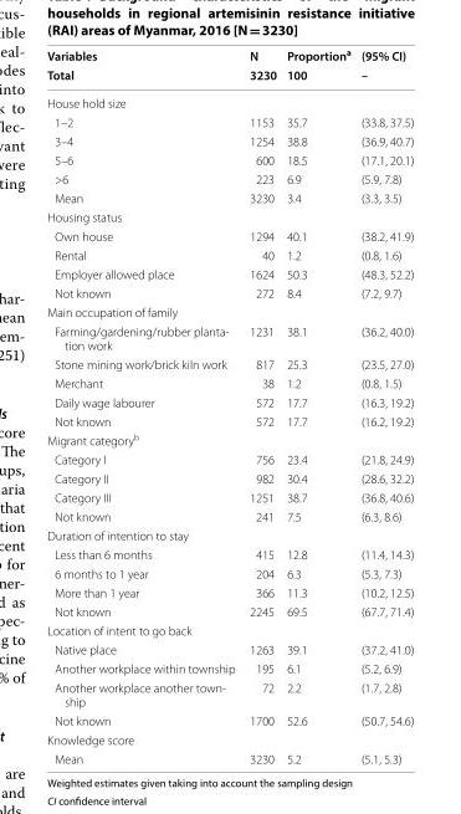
<table><thead><tr><td rowspan="2">Variables Total</td><td rowspan="2">N 3230</td><td rowspan="2">Proportion<sup>a</sup> 100</td><td rowspan="2">(95% CI) –</td></tr><tr></tr></thead><tbody><tr><td colspan="4">House hold size</td></tr><tr><td>1–2</td><td>1153</td><td>35.7</td><td>(33.8, 37.5)</td></tr><tr><td>3–4</td><td>1254</td><td>38.8</td><td>(36.9, 40.7)</td></tr><tr><td>5–6</td><td>600</td><td>18.5</td><td>(17.1, 20.1)</td></tr><tr><td>&gt;6</td><td>223</td><td>6.9</td><td>(5.9, 7.8)</td></tr><tr><td>Mean</td><td>3230</td><td>3.4</td><td>(3.3, 3.5)</td></tr><tr><td colspan="4">Housing status</td></tr><tr><td>Own house</td><td>1294</td><td>40.1</td><td>(38.2, 41.9)</td></tr><tr><td>Rental</td><td>40</td><td>1.2</td><td>(0.8, 1.6)</td></tr><tr><td>Employer allowed place</td><td>1624</td><td>50.3</td><td>(48.3, 52.2)</td></tr><tr><td>Not known</td><td>272</td><td>8.4</td><td>(7.2, 9.7)</td></tr><tr><td colspan="4">Main occupation of family</td></tr><tr><td>Farming/gardening/rubber planta- tion work</td><td>1231</td><td>38.1</td><td>(36.2, 40.0)</td></tr><tr><td>Stone mining work/brick kiln work</td><td>817</td><td>25.3</td><td>(23.5, 27.0)</td></tr><tr><td>Merchant</td><td>38</td><td>1.2</td><td>(0.8, 1.5)</td></tr><tr><td>Daily wage labourer</td><td>572</td><td>17.7</td><td>(16.3, 19.2)</td></tr><tr><td>Not known</td><td>572</td><td>17.7</td><td>(16.2, 19.2)</td></tr><tr><td colspan="4">Migrant category<sup>b</sup></td></tr><tr><td>Category I</td><td>756</td><td>23.4</td><td>(21.8, 24.9)</td></tr><tr><td>Category II</td><td>982</td><td>30.4</td><td>(28.6, 32.2)</td></tr><tr><td>Category III</td><td>1251</td><td>38.7</td><td>(36.8, 40.6)</td></tr><tr><td>Not known</td><td>241</td><td>7.5</td><td>(6.3, 8.6)</td></tr><tr><td colspan="4">Duration of intention to stay</td></tr><tr><td>Less than 6 months</td><td>415</td><td>12.8</td><td>(11.4, 14.3)</td></tr><tr><td>6 months to 1 year</td><td>204</td><td>6.3</td><td>(5.3, 7.3)</td></tr><tr><td>More than 1 year</td><td>366</td><td>11.3</td><td>(10.2, 12.5)</td></tr><tr><td>Not known</td><td>2245</td><td>69.5</td><td>(67.7, 71.4)</td></tr><tr><td colspan="4">Location of intent to go back</td></tr><tr><td>Native place</td><td>1263</td><td>39.1</td><td>(37.2, 41.0)</td></tr><tr><td>Another workplace within township</td><td>195</td><td>6.1</td><td>(5.2, 6.9)</td></tr><tr><td>Another workplace another town- ship</td><td>72</td><td>2.2</td><td>(1.7, 2.8)</td></tr><tr><td>Not known</td><td>1700</td><td>52.6</td><td>(50.7, 54.6)</td></tr><tr><td colspan="4">Knowledge score</td></tr><tr><td>Mean</td><td>3230</td><td>5.2</td><td>(5.1, 5.3)</td></tr></tbody></table>